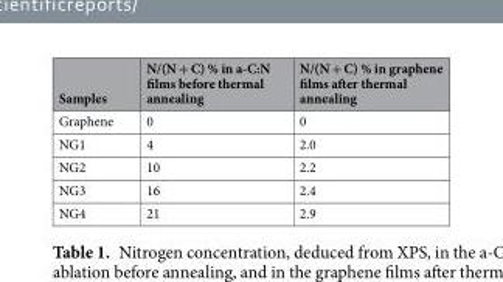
<table><thead><tr><td>Samples</td><td>N/(N + C) % in a-C:N films before thermal annealing</td><td>N/(N + C) % in graphene films after thermal annealing</td></tr></thead><tbody><tr><td>Graphene</td><td>0</td><td>0</td></tr><tr><td>NG1</td><td>4</td><td>2.0</td></tr><tr><td>NG2</td><td>10</td><td>2.2</td></tr><tr><td>NG3</td><td>16</td><td>2.4</td></tr><tr><td>NG4</td><td>21</td><td>2.9</td></tr></tbody></table>